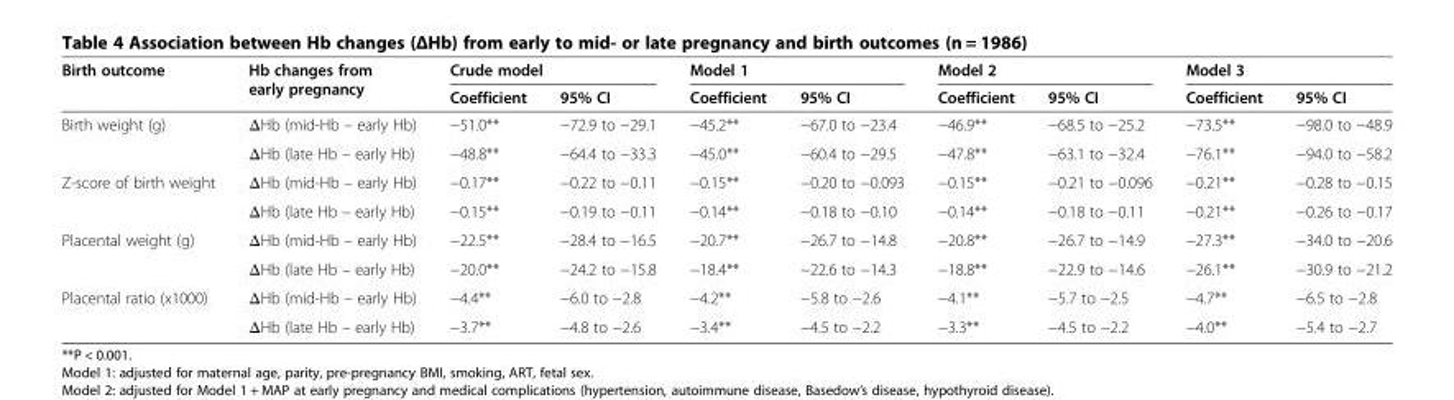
<table><thead><tr><td rowspan="2">Birth outcome</td><td rowspan="2">Hb changes from early pregnancy</td><td colspan="2">Crude model</td><td colspan="2">Model 1</td><td colspan="2">Model 2</td><td colspan="2">Model 3</td></tr><tr><td>Coefficient</td><td>95% CI</td><td>Coefficient</td><td>95% CI</td><td>Coefficient</td><td>95% CI</td><td>Coefficient</td><td>95% CI</td></tr></thead><tbody><tr><td rowspan="2">Birth weight (g)</td><td>ΔHb (mid-Hb – early Hb)</td><td>−51.0**</td><td>−72.9 to −29.1</td><td>−45.2**</td><td>−67.0 to −23.4</td><td>−46.9**</td><td>−68.5 to −25.2</td><td>−73.5**</td><td>−98.0 to −48.9</td></tr><tr><td>ΔHb (late Hb – early Hb)</td><td>−48.8**</td><td>−64.4 to −33.3</td><td>−45.0**</td><td>−60.4 to −29.5</td><td>−47.8**</td><td>−63.1 to −32.4</td><td>−76.1**</td><td>−94.0 to −58.2</td></tr><tr><td rowspan="2">Z-score of birth weight</td><td>ΔHb (mid-Hb – early Hb)</td><td>−0.17**</td><td>−0.22 to −0.11</td><td>−0.15**</td><td>−0.20 to −0.093</td><td>−0.15**</td><td>−0.21 to −0.096</td><td>−0.21**</td><td>−0.28 to −0.15</td></tr><tr><td>ΔHb (late Hb – early Hb)</td><td>−0.15**</td><td>−0.19 to −0.11</td><td>−0.14**</td><td>−0.18 to −0.10</td><td>−0.14**</td><td>−0.18 to −0.11</td><td>−0.21**</td><td>−0.26 to −0.17</td></tr><tr><td rowspan="2">Placental weight (g)</td><td>ΔHb (mid-Hb – early Hb)</td><td>−22.5**</td><td>−28.4 to −16.5</td><td>−20.7**</td><td>−26.7 to −14.8</td><td>−20.8**</td><td>−26.7 to −14.9</td><td>−27.3**</td><td>−34.0 to −20.6</td></tr><tr><td>ΔHb (late Hb – early Hb)</td><td>−20.0**</td><td>−24.2 to −15.8</td><td>−18.4**</td><td>−22.6 to −14.3</td><td>−18.8**</td><td>−22.9 to −14.6</td><td>−26.1**</td><td>−30.9 to −21.2</td></tr><tr><td rowspan="2">Placental ratio (x1000)</td><td>ΔHb (mid-Hb – early Hb)</td><td>−4.4**</td><td>−6.0 to −2.8</td><td>−4.2**</td><td>−5.8 to −2.6</td><td>−4.1**</td><td>−5.7 to −2.5</td><td>−4.7**</td><td>−6.5 to −2.8</td></tr><tr><td>ΔHb (late Hb – early Hb)</td><td>−3.7**</td><td>−4.8 to −2.6</td><td>−3.4**</td><td>−4.5 to −2.2</td><td>−3.3**</td><td>−4.5 to −2.2</td><td>−4.0**</td><td>−5.4 to −2.7</td></tr></tbody></table>